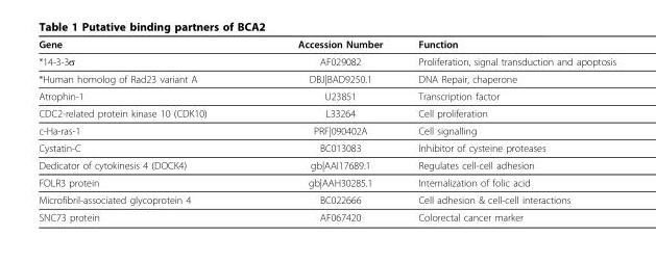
<table><thead><tr><td>Gene</td><td>Accession Number</td><td>Function</td></tr></thead><tbody><tr><td>*14-3-3σ</td><td>AF029082</td><td>Proliferation, signal transduction and apoptosis</td></tr><tr><td>*Human homolog of Rad23 variant A</td><td>DBJ|BAD9250.1</td><td>DNA Repair, chaperone</td></tr><tr><td>Atrophin-1</td><td>U23851</td><td>Transcription factor</td></tr><tr><td>CDC2-related protein kinase 10 (CDK10)</td><td>L33264</td><td>Cell proliferation</td></tr><tr><td>c-Ha-ras-1</td><td>PRF|090402A</td><td>Cell signalling</td></tr><tr><td>Cystatin-C</td><td>BC013083</td><td>Inhibitor of cysteine proteases</td></tr><tr><td>Dedicator of cytokinesis 4 (DOCK4)</td><td>gb|AAI17689.1</td><td>Regulates cell-cell adhesion</td></tr><tr><td>FOLR3 protein</td><td>gb|AAH30285.1</td><td>Internalization of folic acid</td></tr><tr><td>Microfibril-associated glycoprotein 4</td><td>BC022666</td><td>Cell adhesion &amp; cell-cell interactions</td></tr><tr><td>SNC73 protein</td><td>AF067420</td><td>Colorectal cancer marker</td></tr></tbody></table>